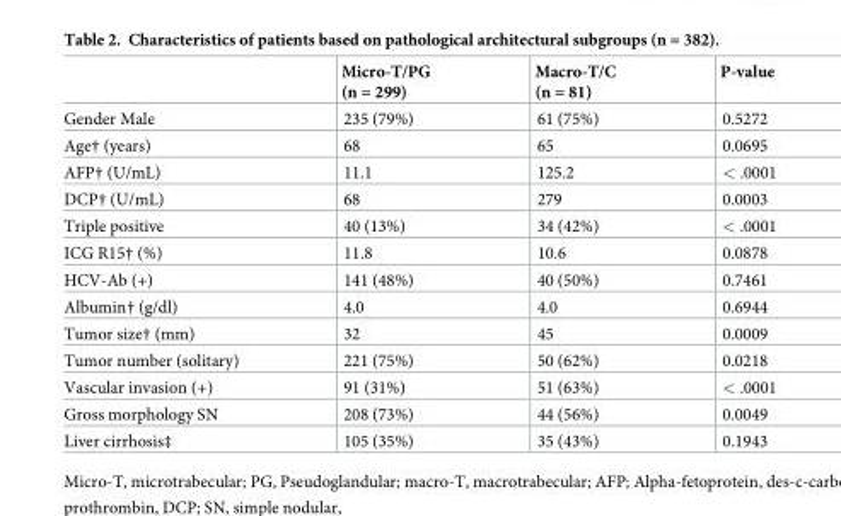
<table><thead><tr><td></td><td>Micro-T/PG (n = 299)</td><td>Macro-T/C (n = 81)</td><td>P-value</td></tr></thead><tbody><tr><td>Gender Male</td><td>235 (79%)</td><td>61 (75%)</td><td>0.5272</td></tr><tr><td>Age† (years)</td><td>68</td><td>65</td><td>0.0695</td></tr><tr><td>AFP† (U/mL)</td><td>11.1</td><td>125.2</td><td>&lt; .0001</td></tr><tr><td>DCP† (U/mL)</td><td>68</td><td>279</td><td>0.0003</td></tr><tr><td>Triple positive</td><td>40 (13%)</td><td>34 (42%)</td><td>&lt; .0001</td></tr><tr><td>ICG R15† (%)</td><td>11.8</td><td>10.6</td><td>0.0878</td></tr><tr><td>HCV-Ab (+)</td><td>141 (48%)</td><td>40 (50%)</td><td>0.7461</td></tr><tr><td>Albumin† (g/dl)</td><td>4.0</td><td>4.0</td><td>0.6944</td></tr><tr><td>Tumor size† (mm)</td><td>32</td><td>45</td><td>0.0009</td></tr><tr><td>Tumor number (solitary)</td><td>221 (75%)</td><td>50 (62%)</td><td>0.0218</td></tr><tr><td>Vascular invasion (+)</td><td>91 (31%)</td><td>51 (63%)</td><td>&lt; .0001</td></tr><tr><td>Gross morphology SN</td><td>208 (73%)</td><td>44 (56%)</td><td>0.0049</td></tr><tr><td>Liver cirrhosis‡</td><td>105 (35%)</td><td>35 (43%)</td><td>0.1943</td></tr></tbody></table>